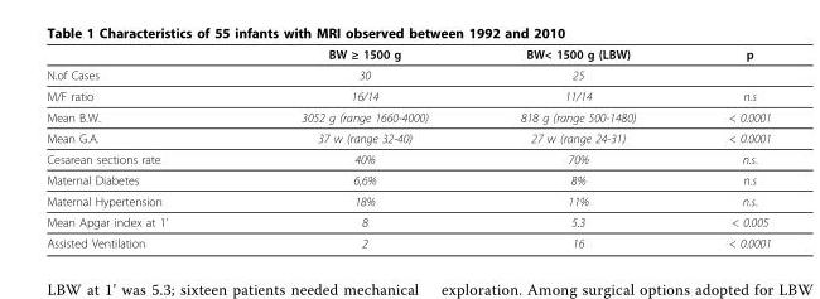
<table><thead><tr><td></td><td>BW ≥ 1500 g</td><td>BW&lt; 1500 g (LBW)</td><td>p</td></tr></thead><tbody><tr><td>N.of Cases</td><td>30</td><td>25</td><td></td></tr><tr><td>M/F ratio</td><td>16/14</td><td>11/14</td><td>n.s</td></tr><tr><td>Mean B.W.</td><td>3052 g (range 1660-4000)</td><td>818 g (range 500-1480)</td><td>&lt; 0.0001</td></tr><tr><td>Mean G.A.</td><td>37 w (range 32-40)</td><td>27 w (range 24-31)</td><td>&lt; 0.0001</td></tr><tr><td>Cesarean sections rate</td><td>40%</td><td>70%</td><td>n.s.</td></tr><tr><td>Maternal Diabetes</td><td>6,6%</td><td>8%</td><td>n.s</td></tr><tr><td>Maternal Hypertension</td><td>18%</td><td>11%</td><td>n.s.</td></tr><tr><td>Mean Apgar index at 1’</td><td>8</td><td>5.3</td><td>&lt; 0.005</td></tr><tr><td>Assisted Ventilation</td><td>2</td><td>16</td><td>&lt; 0.0001</td></tr></tbody></table>